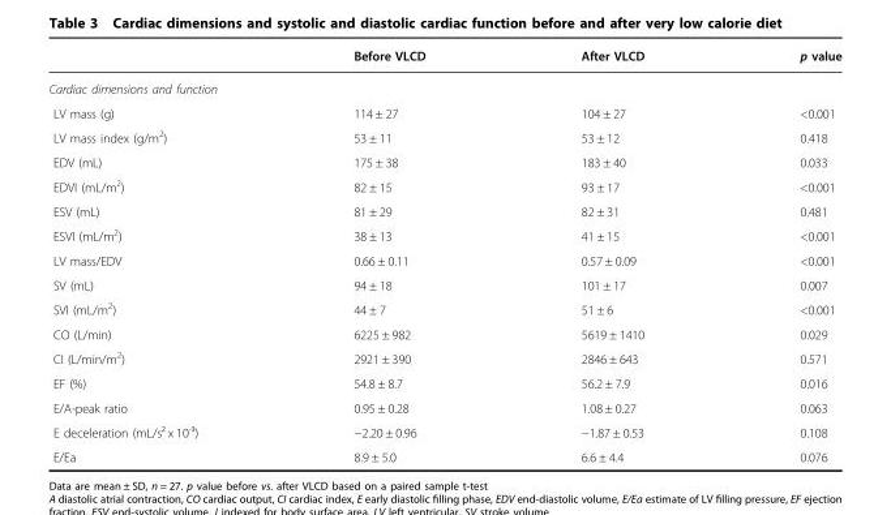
<table><thead><tr><td></td><td>Before VLCD</td><td>After VLCD</td><td>p value</td></tr></thead><tbody><tr><td colspan="4">Cardiac dimensions and function</td></tr><tr><td>LV mass (g)</td><td>114 ± 27</td><td>104 ± 27</td><td>&lt;0.001</td></tr><tr><td>LV mass index (g/m<sup>2</sup>)</td><td>53 ± 11</td><td>53 ± 12</td><td>0.418</td></tr><tr><td>EDV (mL)</td><td>175 ± 38</td><td>183 ± 40</td><td>0.033</td></tr><tr><td>EDVI (mL/m<sup>2</sup>)</td><td>82 ± 15</td><td>93 ± 17</td><td>&lt;0.001</td></tr><tr><td>ESV (mL)</td><td>81 ± 29</td><td>82 ± 31</td><td>0.481</td></tr><tr><td>ESVI (mL/m<sup>2</sup>)</td><td>38 ± 13</td><td>41 ± 15</td><td>&lt;0.001</td></tr><tr><td>LV mass/EDV</td><td>0.66 ± 0.11</td><td>0.57 ± 0.09</td><td>&lt;0.001</td></tr><tr><td>SV (mL)</td><td>94 ± 18</td><td>101 ± 17</td><td>0.007</td></tr><tr><td>SVI (mL/m<sup>2</sup>)</td><td>44 ± 7</td><td>51 ± 6</td><td>&lt;0.001</td></tr><tr><td>CO (L/min)</td><td>6225 ± 982</td><td>5619 ± 1410</td><td>0.029</td></tr><tr><td>CI (L/min/m<sup>2</sup>)</td><td>2921 ± 390</td><td>2846 ± 643</td><td>0.571</td></tr><tr><td>EF (%)</td><td>54.8 ± 8.7</td><td>56.2 ± 7.9</td><td>0.016</td></tr><tr><td>E/A-peak ratio</td><td>0.95 ± 0.28</td><td>1.08 ± 0.27</td><td>0.063</td></tr><tr><td>E deceleration (mL/s² x 10<sup>-</sup>³)</td><td>−2.20 ± 0.96</td><td>−1.87 ± 0.53</td><td>0.108</td></tr><tr><td>E/Ea</td><td>8.9 ± 5.0</td><td>6.6 ± 4.4</td><td>0.076</td></tr></tbody></table>